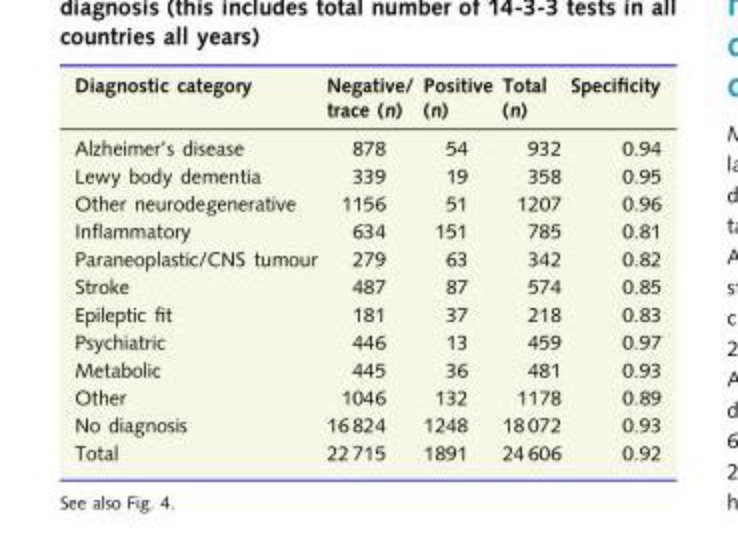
<table><thead><tr><td>Diagnostic category</td><td>Negative/ trace (n)</td><td>Positive (n)</td><td>Total (n)</td><td>Specificity</td></tr></thead><tbody><tr><td>Alzheimer’s disease</td><td>878</td><td>54</td><td>932</td><td>0.94</td></tr><tr><td>Lewy body dementia</td><td>339</td><td>19</td><td>358</td><td>0.95</td></tr><tr><td>Other neurodegenerative</td><td>1156</td><td>51</td><td>1207</td><td>0.96</td></tr><tr><td>Inflammatory</td><td>634</td><td>151</td><td>785</td><td>0.81</td></tr><tr><td>Paraneoplastic/CNS tumour</td><td>279</td><td>63</td><td>342</td><td>0.82</td></tr><tr><td>Stroke</td><td>487</td><td>87</td><td>574</td><td>0.85</td></tr><tr><td>Epileptic fit</td><td>181</td><td>37</td><td>218</td><td>0.83</td></tr><tr><td>Psychiatric</td><td>446</td><td>13</td><td>459</td><td>0.97</td></tr><tr><td>Metabolic</td><td>445</td><td>36</td><td>481</td><td>0.93</td></tr><tr><td>Other</td><td>1046</td><td>132</td><td>1178</td><td>0.89</td></tr><tr><td>No diagnosis</td><td>16 824</td><td>1248</td><td>18 072</td><td>0.93</td></tr><tr><td>Total</td><td>22 715</td><td>1891</td><td>24 606</td><td>0.92</td></tr></tbody></table>